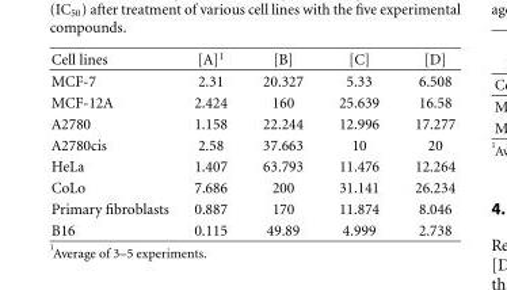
<table><thead><tr><td>Cell lines</td><td>[A]<sup>1</sup></td><td>[B]</td><td>[C]</td><td>[D]</td></tr></thead><tbody><tr><td>MCF-7</td><td>2.31</td><td>20.327</td><td>5.33</td><td>6.508</td></tr><tr><td>MCF-12A</td><td>2.424</td><td>160</td><td>25.639</td><td>16.58</td></tr><tr><td>A2780</td><td>1.158</td><td>22.244</td><td>12.996</td><td>17.277</td></tr><tr><td>A2780cis</td><td>2.58</td><td>37.663</td><td>10</td><td>20</td></tr><tr><td>HeLa</td><td>1.407</td><td>63.793</td><td>11.476</td><td>12.264</td></tr><tr><td>CoLo</td><td>7.686</td><td>200</td><td>31.141</td><td>26.234</td></tr><tr><td>Primary fibroblasts</td><td>0.887</td><td>170</td><td>11.874</td><td>8.046</td></tr><tr><td>B16</td><td>0.115</td><td>49.89</td><td>4.999</td><td>2.738</td></tr></tbody></table>